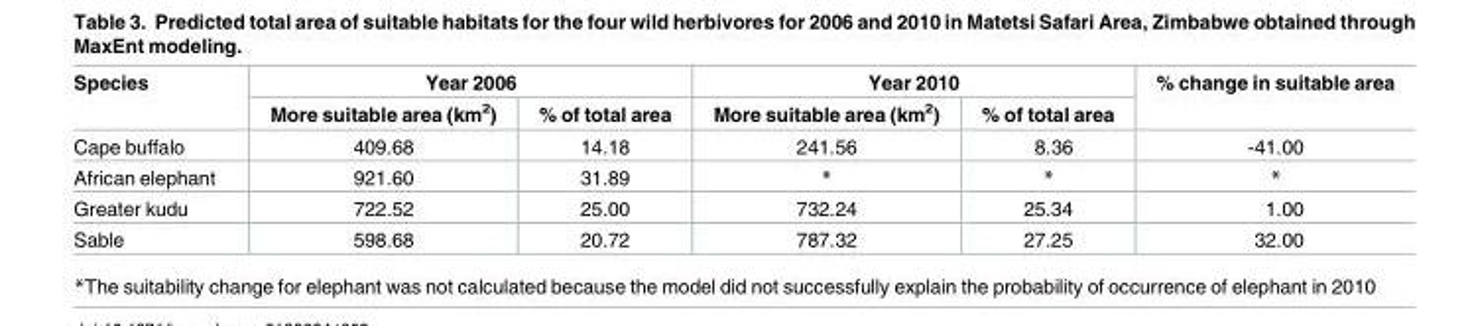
<table><thead><tr><td rowspan="2">Species</td><td colspan="2">Year 2006</td><td colspan="2">Year 2010</td><td rowspan="2">% change in suitable area</td></tr><tr><td>More suitable area (km<sup>2</sup>)</td><td>% of total area</td><td>More suitable area (km<sup>2</sup>)</td><td>% of total area</td></tr></thead><tbody><tr><td>Cape buffalo</td><td>409.68</td><td>14.18</td><td>241.56</td><td>8.36</td><td>-41.00</td></tr><tr><td>African elephant</td><td>921.60</td><td>31.89</td><td>*</td><td>*</td><td>*</td></tr><tr><td>Greater kudu</td><td>722.52</td><td>25.00</td><td>732.24</td><td>25.34</td><td>1.00</td></tr><tr><td>Sable</td><td>598.68</td><td>20.72</td><td>787.32</td><td>27.25</td><td>32.00</td></tr></tbody></table>